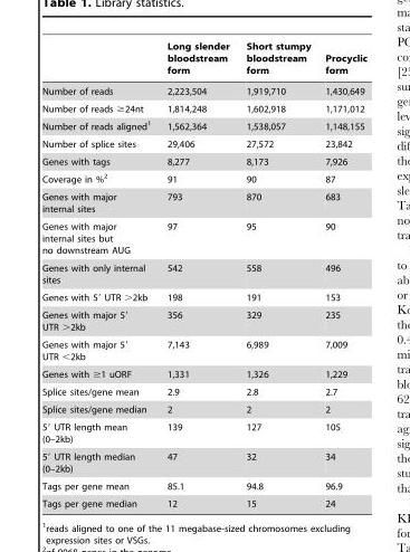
<table><thead><tr><td></td><td>Long slender bloodstream form</td><td>Short stumpy bloodstream form</td><td>Procyclic form</td></tr></thead><tbody><tr><td>Number of reads</td><td>2,223,504</td><td>1,919,710</td><td>1,430,649</td></tr><tr><td>Number of reads ≥24nt</td><td>1,814,248</td><td>1,602,918</td><td>1,171,012</td></tr><tr><td>Number of reads aligned<sup>1</sup></td><td>1,562,364</td><td>1,538,057</td><td>1,148,155</td></tr><tr><td>Number of splice sites</td><td>29,406</td><td>27,572</td><td>23,842</td></tr><tr><td>Genes with tags</td><td>8,277</td><td>8,173</td><td>7,926</td></tr><tr><td>Coverage in %<sup>2</sup></td><td>91</td><td>90</td><td>87</td></tr><tr><td>Genes with major internal sites</td><td>793</td><td>870</td><td>683</td></tr><tr><td>Genes with major internal sites but no downstream AUG</td><td>97</td><td>95</td><td>90</td></tr><tr><td>Genes with only internal sites</td><td>542</td><td>558</td><td>496</td></tr><tr><td>Genes with 5′ UTR &gt;2kb</td><td>198</td><td>191</td><td>153</td></tr><tr><td>Genes with major 5′ UTR &gt;2kb</td><td>356</td><td>329</td><td>235</td></tr><tr><td>Genes with major 5′ UTR &lt;2kb</td><td>7,143</td><td>6,989</td><td>7,009</td></tr><tr><td>Genes with ≥1 uORF</td><td>1,331</td><td>1,326</td><td>1,229</td></tr><tr><td>Splice sites/gene mean</td><td>2.9</td><td>2.8</td><td>2.7</td></tr><tr><td>Splice sites/gene median</td><td>2</td><td>2</td><td>2</td></tr><tr><td>5′ UTR length mean (0–2kb)</td><td>139</td><td>127</td><td>105</td></tr><tr><td>5′ UTR length median (0–2kb)</td><td>47</td><td>32</td><td>34</td></tr><tr><td>Tags per gene mean</td><td>85.1</td><td>94.8</td><td>96.9</td></tr><tr><td>Tags per gene median</td><td>12</td><td>15</td><td>24</td></tr></tbody></table>